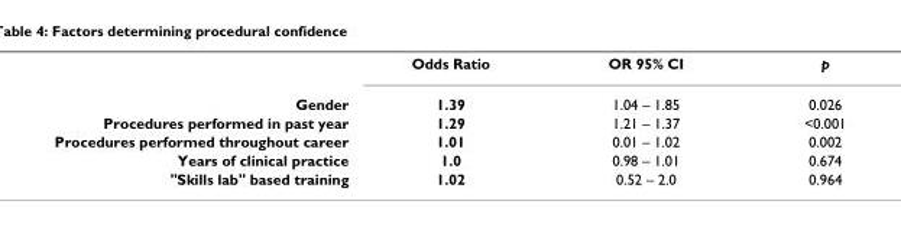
<table><thead><tr><td></td><td>Odds Ratio</td><td>OR 95% CI</td><td>p</td></tr></thead><tbody><tr><td>Gender</td><td>1.39</td><td>1.04 – 1.85</td><td>0.026</td></tr><tr><td>Procedures performed in past year</td><td>1.29</td><td>1.21 – 1.37</td><td>&lt;0.001</td></tr><tr><td>Procedures performed throughout career</td><td>1.01</td><td>0.01 – 1.02</td><td>0.002</td></tr><tr><td>Years of clinical practice</td><td>1.0</td><td>0.98 – 1.01</td><td>0.674</td></tr><tr><td>&quot;Skills lab&quot; based training</td><td>1.02</td><td>0.52 – 2.0</td><td>0.964</td></tr></tbody></table>